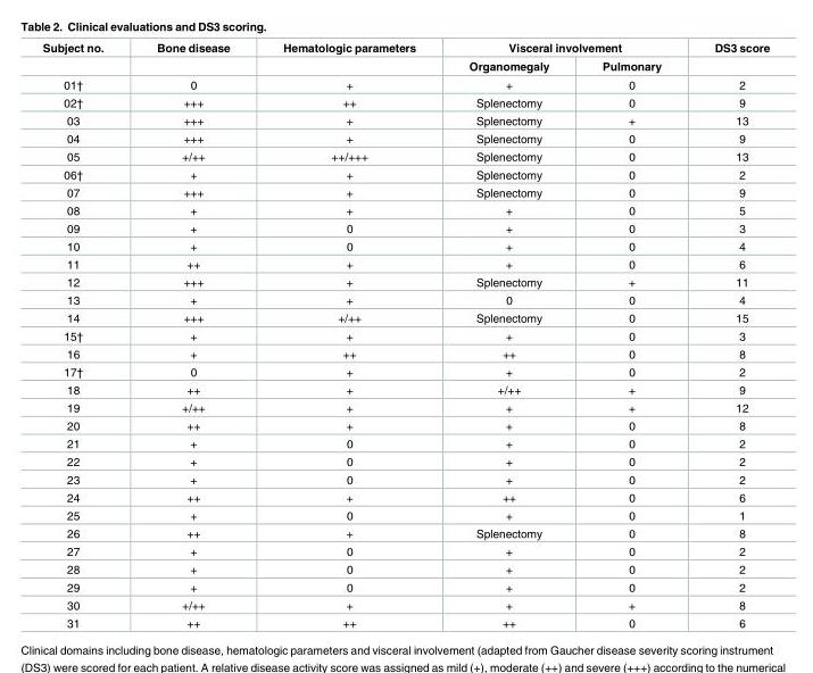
<table><thead><tr><td rowspan="2">Subject no.</td><td rowspan="2">Bone disease</td><td rowspan="2">Hematologic parameters</td><td colspan="2">Visceral involvement</td><td rowspan="2">DS3 score</td></tr><tr><td>Organomegaly</td><td>Pulmonary</td></tr></thead><tbody><tr><td>01†</td><td>0</td><td>+</td><td>+</td><td>0</td><td>2</td></tr><tr><td>02†</td><td>+++</td><td>++</td><td>Splenectomy</td><td>0</td><td>9</td></tr><tr><td>03</td><td>+++</td><td>+</td><td>Splenectomy</td><td>+</td><td>13</td></tr><tr><td>04</td><td>+++</td><td>+</td><td>Splenectomy</td><td>0</td><td>9</td></tr><tr><td>05</td><td>+/++</td><td>++/+++</td><td>Splenectomy</td><td>0</td><td>13</td></tr><tr><td>06†</td><td>+</td><td>+</td><td>Splenectomy</td><td>0</td><td>2</td></tr><tr><td>07</td><td>+++</td><td>+</td><td>Splenectomy</td><td>0</td><td>9</td></tr><tr><td>08</td><td>+</td><td>+</td><td>+</td><td>0</td><td>5</td></tr><tr><td>09</td><td>+</td><td>0</td><td>+</td><td>0</td><td>3</td></tr><tr><td>10</td><td>+</td><td>0</td><td>+</td><td>0</td><td>4</td></tr><tr><td>11</td><td>++</td><td>+</td><td>+</td><td>0</td><td>6</td></tr><tr><td>12</td><td>+++</td><td>+</td><td>Splenectomy</td><td>+</td><td>11</td></tr><tr><td>13</td><td>+</td><td>+</td><td>0</td><td>0</td><td>4</td></tr><tr><td>14</td><td>+++</td><td>+/++</td><td>Splenectomy</td><td>0</td><td>15</td></tr><tr><td>15†</td><td>+</td><td>+</td><td>+</td><td>0</td><td>3</td></tr><tr><td>16</td><td>+</td><td>++</td><td>++</td><td>0</td><td>8</td></tr><tr><td>17†</td><td>0</td><td>+</td><td>+</td><td>0</td><td>2</td></tr><tr><td>18</td><td>++</td><td>+</td><td>+/++</td><td>+</td><td>9</td></tr><tr><td>19</td><td>+/++</td><td>+</td><td>+</td><td>+</td><td>12</td></tr><tr><td>20</td><td>++</td><td>+</td><td>+</td><td>0</td><td>8</td></tr><tr><td>21</td><td>+</td><td>0</td><td>+</td><td>0</td><td>2</td></tr><tr><td>22</td><td>+</td><td>0</td><td>+</td><td>0</td><td>2</td></tr><tr><td>23</td><td>+</td><td>0</td><td>+</td><td>0</td><td>2</td></tr><tr><td>24</td><td>++</td><td>+</td><td>++</td><td>0</td><td>6</td></tr><tr><td>25</td><td>+</td><td>0</td><td>+</td><td>0</td><td>1</td></tr><tr><td>26</td><td>++</td><td>+</td><td>Splenectomy</td><td>0</td><td>8</td></tr><tr><td>27</td><td>+</td><td>0</td><td>+</td><td>0</td><td>2</td></tr><tr><td>28</td><td>+</td><td>0</td><td>+</td><td>0</td><td>2</td></tr><tr><td>29</td><td>+</td><td>0</td><td>+</td><td>0</td><td>2</td></tr><tr><td>30</td><td>+/++</td><td>+</td><td>+</td><td>+</td><td>8</td></tr><tr><td>31</td><td>++</td><td>++</td><td>++</td><td>0</td><td>6</td></tr></tbody></table>